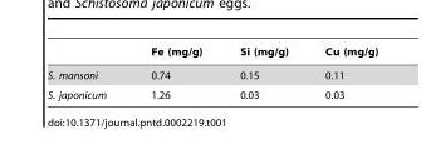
<table><thead><tr><td></td><td>Fe (mg/g)</td><td>Si (mg/g)</td><td>Cu (mg/g)</td></tr></thead><tbody><tr><td>S. mansoni</td><td>0.74</td><td>0.15</td><td>0.11</td></tr><tr><td>S. japonicum</td><td>1.26</td><td>0.03</td><td>0.03</td></tr></tbody></table>